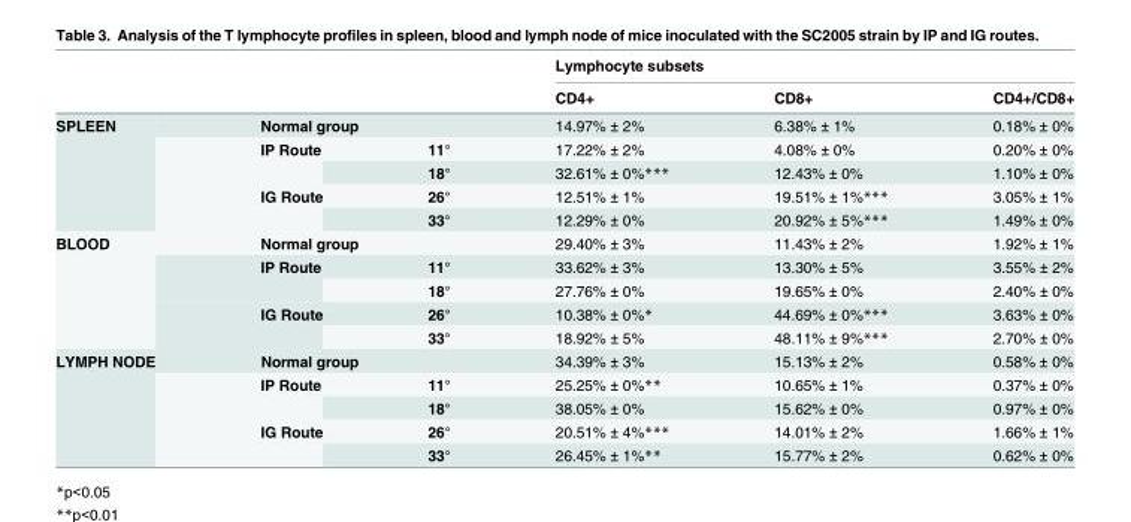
<table><thead><tr><td rowspan="2"></td><td rowspan="2"></td><td rowspan="2"></td><td colspan="3">Lymphocyte subsets</td></tr><tr><td>CD4+</td><td>CD8+</td><td>CD4+/CD8+</td></tr></thead><tbody><tr><td rowspan="5">SPLEEN</td><td colspan="2">Normal group</td><td>14.97% ± 2%</td><td>6.38% ± 1%</td><td>0.18% ± 0%</td></tr><tr><td rowspan="2">IP Route</td><td>11°</td><td>17.22% ± 2%</td><td>4.08% ± 0%</td><td>0.20% ± 0%</td></tr><tr><td>18°</td><td>32.61% ± 0%***</td><td>12.43% ± 0%</td><td>1.10% ± 0%</td></tr><tr><td rowspan="2">IG Route</td><td>26°</td><td>12.51% ± 1%</td><td>19.51% ± 1%***</td><td>3.05% ± 1%</td></tr><tr><td>33°</td><td>12.29% ± 0%</td><td>20.92% ± 5%***</td><td>1.49% ± 0%</td></tr><tr><td rowspan="5">BLOOD</td><td colspan="2">Normal group</td><td>29.40% ± 3%</td><td>11.43% ± 2%</td><td>1.92% ± 1%</td></tr><tr><td rowspan="2">IP Route</td><td>11°</td><td>33.62% ± 3%</td><td>13.30% ± 5%</td><td>3.55% ± 2%</td></tr><tr><td>18°</td><td>27.76% ± 0%</td><td>19.65% ± 0%</td><td>2.40% ± 0%</td></tr><tr><td rowspan="2">IG Route</td><td>26°</td><td>10.38% ± 0%*</td><td>44.69% ± 0%***</td><td>3.63% ± 0%</td></tr><tr><td>33°</td><td>18.92% ± 5%</td><td>48.11% ± 9%***</td><td>2.70% ± 0%</td></tr><tr><td rowspan="5">LYMPH NODE</td><td colspan="2">Normal group</td><td>34.39% ± 3%</td><td>15.13% ± 2%</td><td>0.58% ± 0%</td></tr><tr><td rowspan="2">IP Route</td><td>11°</td><td>25.25% ± 0%**</td><td>10.65% ± 1%</td><td>0.37% ± 0%</td></tr><tr><td>18°</td><td>38.05% ± 0%</td><td>15.62% ± 0%</td><td>0.97% ± 0%</td></tr><tr><td rowspan="2">IG Route</td><td>26°</td><td>20.51% ± 4%***</td><td>14.01% ± 2%</td><td>1.66% ± 1%</td></tr><tr><td>33°</td><td>26.45% ± 1%**</td><td>15.77% ± 2%</td><td>0.62% ± 0%</td></tr></tbody></table>